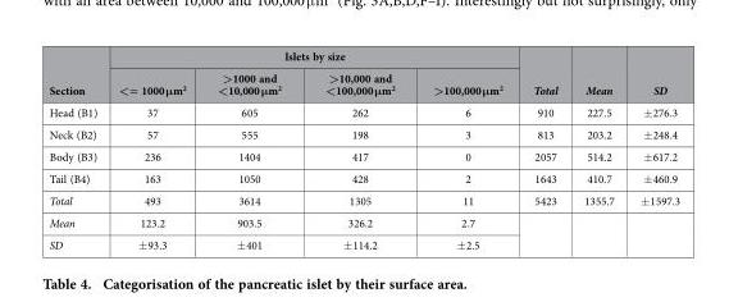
<table><thead><tr><td rowspan="2">Section</td><td colspan="4">Islets by size</td><td rowspan="2">Total</td><td rowspan="2">Mean</td><td rowspan="2">SD</td></tr><tr><td>&lt;= 1000 μm<sup>2</sup></td><td>&gt;1000 and &lt;10,000 μm<sup>2</sup></td><td>&gt;10,000 and &lt;100,000 μm<sup>2</sup></td><td>&gt;100,000 μm<sup>2</sup></td></tr></thead><tbody><tr><td>Head (B1)</td><td>37</td><td>605</td><td>262</td><td>6</td><td>910</td><td>227.5</td><td>± 276.3</td></tr><tr><td>Neck (B2)</td><td>57</td><td>555</td><td>198</td><td>3</td><td>813</td><td>203.2</td><td>± 248.4</td></tr><tr><td>Body (B3)</td><td>236</td><td>1404</td><td>417</td><td>0</td><td>2057</td><td>514.2</td><td>± 617.2</td></tr><tr><td>Tail (B4)</td><td>163</td><td>1050</td><td>428</td><td>2</td><td>1643</td><td>410.7</td><td>± 460.9</td></tr><tr><td>Total</td><td>493</td><td>3614</td><td>1305</td><td>11</td><td>5423</td><td>1355.7</td><td>± 1597.3</td></tr><tr><td>Mean</td><td>123.2</td><td>903.5</td><td>326.2</td><td>2.7</td><td rowspan="2"></td><td rowspan="2"></td><td rowspan="2"></td></tr><tr><td>SD</td><td>± 93.3</td><td>± 401</td><td>± 114.2</td><td>± 2.5</td></tr></tbody></table>